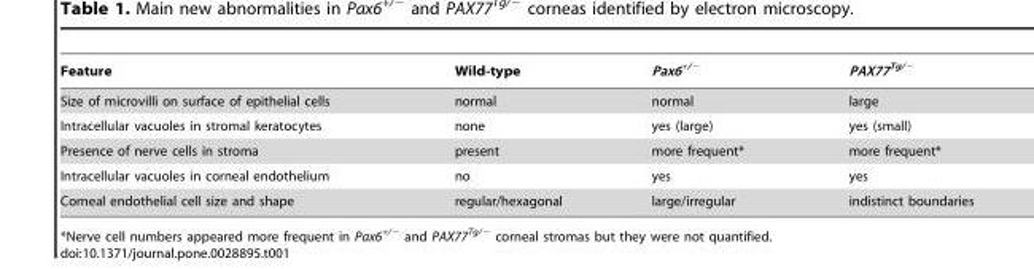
<table><thead><tr><td>Feature</td><td>Wild-type</td><td>Pax6<sup>+/−</sup></td><td>PAX77<sup>Tg/−</sup></td></tr></thead><tbody><tr><td>Size of microvilli on surface of epithelial cells</td><td>normal</td><td>normal</td><td>large</td></tr><tr><td>Intracellular vacuoles in stromal keratocytes</td><td>none</td><td>yes (large)</td><td>yes (small)</td></tr><tr><td>Presence of nerve cells in stroma</td><td>present</td><td>more frequent*</td><td>more frequent*</td></tr><tr><td>Intracellular vacuoles in corneal endothelium</td><td>no</td><td>yes</td><td>yes</td></tr><tr><td>Corneal endothelial cell size and shape</td><td>regular/hexagonal</td><td>large/irregular</td><td>indistinct boundaries</td></tr></tbody></table>